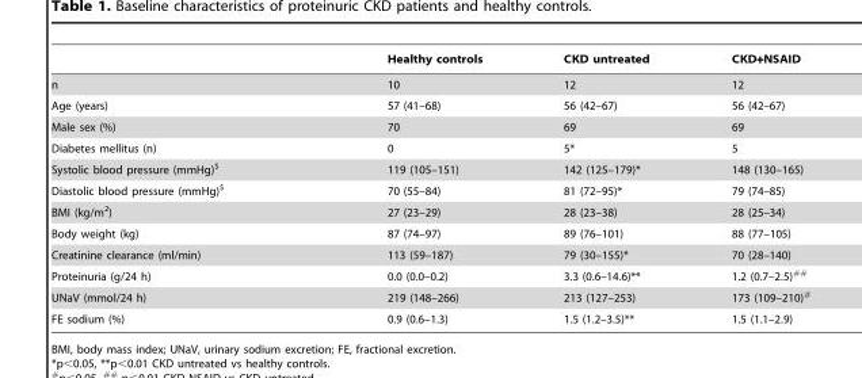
<table><thead><tr><td></td><td>Healthy controls</td><td>CKD untreated</td><td>CKD+NSAID</td></tr></thead><tbody><tr><td>n</td><td>10</td><td>12</td><td>12</td></tr><tr><td>Age (years)</td><td>57 (41–68)</td><td>56 (42–67)</td><td>56 (42–67)</td></tr><tr><td>Male sex (%)</td><td>70</td><td>69</td><td>69</td></tr><tr><td>Diabetes mellitus (n)</td><td>0</td><td>5*</td><td>5</td></tr><tr><td>Systolic blood pressure (mmHg)$</td><td>119 (105–151)</td><td>142 (125–179)*</td><td>148 (130–165)</td></tr><tr><td>Diastolic blood pressure (mmHg)$</td><td>70 (55–84)</td><td>81 (72–95)*</td><td>79 (74–85)</td></tr><tr><td>BMI (kg/m<sup>2</sup>)</td><td>27 (23–29)</td><td>28 (23–38)</td><td>28 (25–34)</td></tr><tr><td>Body weight (kg)</td><td>87 (74–97)</td><td>89 (76–101)</td><td>88 (77–105)</td></tr><tr><td>Creatinine clearance (ml/min)</td><td>113 (59–187)</td><td>79 (30–155)*</td><td>70 (28–140)</td></tr><tr><td>Proteinuria (g/24 h)</td><td>0.0 (0.0–0.2)</td><td>3.3 (0.6–14.6)**</td><td>1.2 (0.7–2.5)<sup>##</sup></td></tr><tr><td>UNaV (mmol/24 h)</td><td>219 (148–266)</td><td>213 (127–253)</td><td>173 (109–210)#</td></tr><tr><td>FE sodium (%)</td><td>0.9 (0.6–1.3)</td><td>1.5 (1.2–3.5)**</td><td>1.5 (1.1–2.9)</td></tr></tbody></table>